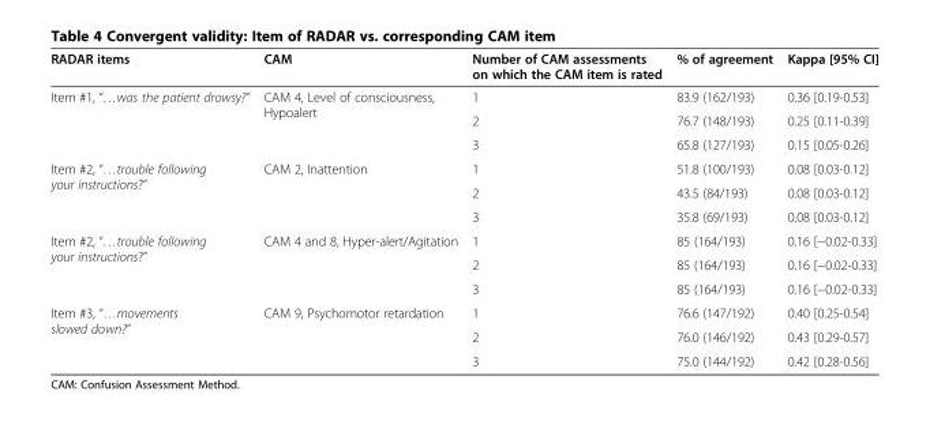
<table><thead><tr><td>RADAR items</td><td>CAM</td><td>Number of CAM assessments on which the CAM item is rated</td><td>% of agreement</td><td>Kappa [95% CI]</td></tr></thead><tbody><tr><td rowspan="3">Item #1, “…was the patient drowsy?”</td><td rowspan="3">CAM 4, Level of consciousness, Hypoalert</td><td>1</td><td>83.9 (162/193)</td><td>0.36 [0.19-0.53]</td></tr><tr><td>2</td><td>76.7 (148/193)</td><td>0.25 [0.11-0.39]</td></tr><tr><td>3</td><td>65.8 (127/193)</td><td>0.15 [0.05-0.26]</td></tr><tr><td rowspan="3">Item #2, “…trouble following your instructions?”</td><td rowspan="3">CAM 2, Inattention</td><td>1</td><td>51.8 (100/193)</td><td>0.08 [0.03-0.12]</td></tr><tr><td>2</td><td>43.5 (84/193)</td><td>0.08 [0.03-0.12]</td></tr><tr><td>3</td><td>35.8 (69/193)</td><td>0.08 [0.03-0.12]</td></tr><tr><td rowspan="3">Item #2, “…trouble following your instructions?”</td><td rowspan="3">CAM 4 and 8, Hyper-alert/Agitation</td><td>1</td><td>85 (164/193)</td><td>0.16 [−0.02-0.33]</td></tr><tr><td>2</td><td>85 (164/193)</td><td>0.16 [−0.02-0.33]</td></tr><tr><td>3</td><td>85 (164/193)</td><td>0.16 [−0.02-0.33]</td></tr><tr><td rowspan="3">Item #3, “…movements slowed down?”</td><td rowspan="3">CAM 9, Psychomotor retardation</td><td>1</td><td>76.6 (147/192)</td><td>0.40 [0.25-0.54]</td></tr><tr><td>2</td><td>76.0 (146/192)</td><td>0.43 [0.29-0.57]</td></tr><tr><td>3</td><td>75.0 (144/192)</td><td>0.42 [0.28-0.56]</td></tr></tbody></table>